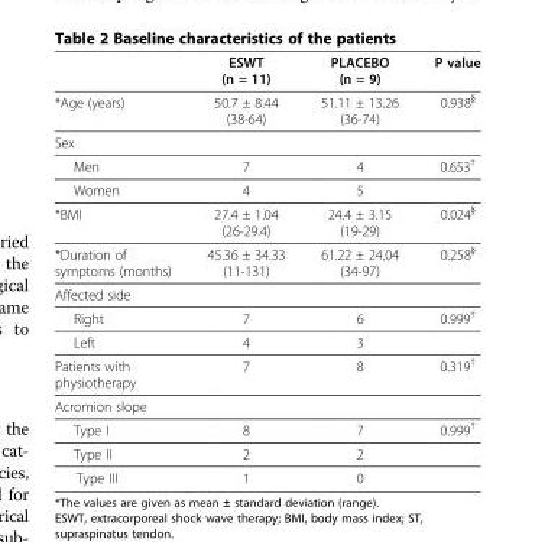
<table><thead><tr><td></td><td>ESWT (n = 11)</td><td>PLACEBO (n = 9)</td><td>P value</td></tr></thead><tbody><tr><td>*Age (years)</td><td>50.7 ± 8.44 (38-64)</td><td>51.11 ± 13.26 (36-74)</td><td>0.938<sup>§</sup></td></tr><tr><td colspan="4">Sex</td></tr><tr><td>Men</td><td>7</td><td>4</td><td>0.653<sup>†</sup></td></tr><tr><td>Women</td><td>4</td><td>5</td><td></td></tr><tr><td>*BMI</td><td>27.4 ± 1.04 (26-29.4)</td><td>24.4 ± 3.15 (19-29)</td><td>0.024<sup>§</sup></td></tr><tr><td>*Duration of symptoms (months)</td><td>45.36 ± 34.33 (11-131)</td><td>61.22 ± 24.04 (34-97)</td><td>0.258<sup>§</sup></td></tr><tr><td colspan="4">Affected side</td></tr><tr><td>Right</td><td>7</td><td>6</td><td>0.999<sup>†</sup></td></tr><tr><td>Left</td><td>4</td><td>3</td><td></td></tr><tr><td>Patients with physiotherapy</td><td>7</td><td>8</td><td>0.319<sup>†</sup></td></tr><tr><td colspan="4">Acromion slope</td></tr><tr><td>Type I</td><td>8</td><td>7</td><td>0.999<sup>†</sup></td></tr><tr><td>Type II</td><td>2</td><td>2</td><td></td></tr><tr><td>Type III</td><td>1</td><td>0</td><td></td></tr></tbody></table>